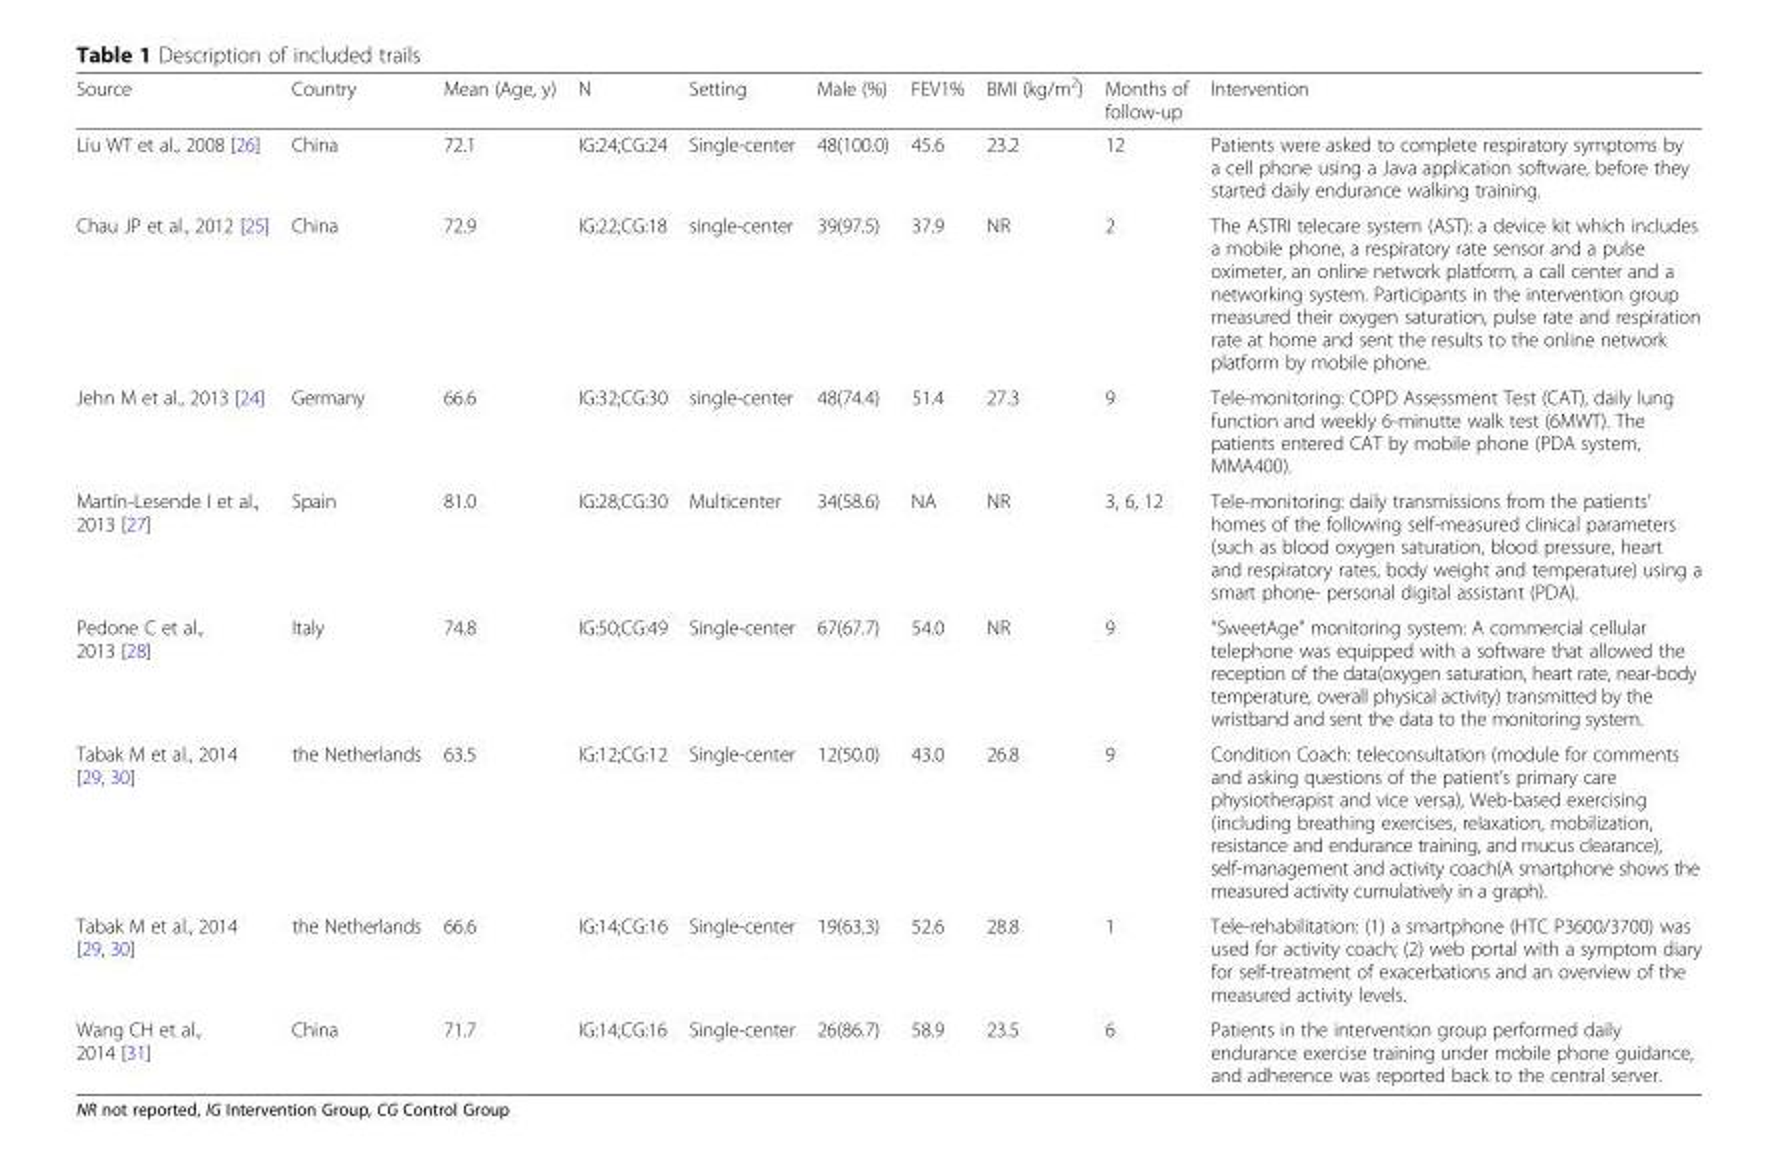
<table><thead><tr><td>Source</td><td>Country</td><td>Mean (Age, y)</td><td>N</td><td>Setting</td><td>Male (%)</td><td>FEV1%</td><td>BMI (kg/m<sup>2</sup>)</td><td>Months of follow-up</td><td>Intervention</td></tr></thead><tbody><tr><td>Liu WT et al., 2008 [26]</td><td>China</td><td>72.1</td><td>IG:24;CG:24</td><td>Single-center</td><td>48(100.0)</td><td>45.6</td><td>23.2</td><td>12</td><td>Patients were asked to complete respiratory symptoms by a cell phone using a Java application software, before they started daily endurance walking training.</td></tr><tr><td>Chau JP et al., 2012 [25]</td><td>China</td><td>72.9</td><td>IG:22;CG:18</td><td>single-center</td><td>39(97.5)</td><td>37.9</td><td>NR</td><td>2</td><td>The ASTRI telecare system (AST): a device kit which includes a mobile phone, a respiratory rate sensor and a pulse oximeter, an online network platform, a call center and a networking system. Participants in the intervention group measured their oxygen saturation, pulse rate and respiration rate at home and sent the results to the online network platform by mobile phone.</td></tr><tr><td>Jehn M et al., 2013 [24]</td><td>Germany</td><td>66.6</td><td>IG:32;CG:30</td><td>single-center</td><td>48(74.4)</td><td>51.4</td><td>27.3</td><td>9</td><td>Tele-monitoring: COPD Assessment Test (CAT), daily lung function and weekly 6-minutte walk test (6MWT). The patients entered CAT by mobile phone (PDA system, MMA400).</td></tr><tr><td>Martín-Lesende I et al., 2013 [27]</td><td>Spain</td><td>81.0</td><td>IG:28;CG:30</td><td>Multicenter</td><td>34(58.6)</td><td>NA</td><td>NR</td><td>3, 6, 12</td><td>Tele-monitoring: daily transmissions from the patients’ homes of the following self-measured clinical parameters (such as blood oxygen saturation, blood pressure, heart and respiratory rates, body weight and temperature) using a smart phone- personal digital assistant (PDA).</td></tr><tr><td>Pedone C et al., 2013 [28]</td><td>Italy</td><td>74.8</td><td>IG:50;CG:49</td><td>Single-center</td><td>67(67.7)</td><td>54.0</td><td>NR</td><td>9</td><td>“SweetAge” monitoring system: A commercial cellular telephone was equipped with a software that allowed the reception of the data(oxygen saturation, heart rate, near-body temperature, overall physical activity) transmitted by the wristband and sent the data to the monitoring system.</td></tr><tr><td>Tabak M et al., 2014 [29, 30]</td><td>the Netherlands</td><td>63.5</td><td>IG:12;CG:12</td><td>Single-center</td><td>12(50.0)</td><td>43.0</td><td>26.8</td><td>9</td><td>Condition Coach: teleconsultation (module for comments and asking questions of the patient’s primary care physiotherapist and vice versa), Web-based exercising (including breathing exercises, relaxation, mobilization, resistance and endurance training, and mucus clearance), self-management and activity coach(A smartphone shows the measured activity cumulatively in a graph).</td></tr><tr><td>Tabak M et al., 2014 [29, 30]</td><td>the Netherlands</td><td>66.6</td><td>IG:14;CG:16</td><td>Single-center</td><td>19(63.3)</td><td>52.6</td><td>28.8</td><td>1</td><td>Tele-rehabilitation: (1) a smartphone (HTC P3600/3700) was used for activity coach; (2) web portal with a symptom diary for self-treatment of exacerbations and an overview of the measured activity levels.</td></tr><tr><td>Wang CH et al., 2014 [31]</td><td>China</td><td>71.7</td><td>IG:14;CG:16</td><td>Single-center</td><td>26(86.7)</td><td>58.9</td><td>23.5</td><td>6</td><td>Patients in the intervention group performed daily endurance exercise training under mobile phone guidance, and adherence was reported back to the central server.</td></tr></tbody></table>